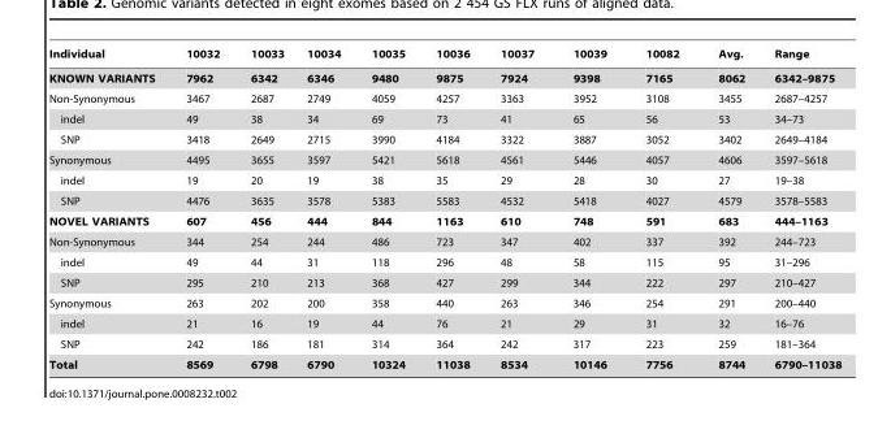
<table><thead><tr><td>Individual</td><td>10032</td><td>10033</td><td>10034</td><td>10035</td><td>10036</td><td>10037</td><td>10039</td><td>10082</td><td>Avg.</td><td>Range</td></tr></thead><tbody><tr><td>KNOWN VARIANTS</td><td>7962</td><td>6342</td><td>6346</td><td>9480</td><td>9875</td><td>7924</td><td>9398</td><td>7165</td><td>8062</td><td>6342–9875</td></tr><tr><td>Non-Synonymous</td><td>3467</td><td>2687</td><td>2749</td><td>4059</td><td>4257</td><td>3363</td><td>3952</td><td>3108</td><td>3455</td><td>2687–4257</td></tr><tr><td>indel</td><td>49</td><td>38</td><td>34</td><td>69</td><td>73</td><td>41</td><td>65</td><td>56</td><td>53</td><td>34–73</td></tr><tr><td>SNP</td><td>3418</td><td>2649</td><td>2715</td><td>3990</td><td>4184</td><td>3322</td><td>3887</td><td>3052</td><td>3402</td><td>2649–4184</td></tr><tr><td>Synonymous</td><td>4495</td><td>3655</td><td>3597</td><td>5421</td><td>5618</td><td>4561</td><td>5446</td><td>4057</td><td>4606</td><td>3597–5618</td></tr><tr><td>indel</td><td>19</td><td>20</td><td>19</td><td>38</td><td>35</td><td>29</td><td>28</td><td>30</td><td>27</td><td>19–38</td></tr><tr><td>SNP</td><td>4476</td><td>3635</td><td>3578</td><td>5383</td><td>5583</td><td>4532</td><td>5418</td><td>4027</td><td>4579</td><td>3578–5583</td></tr><tr><td>NOVEL VARIANTS</td><td>607</td><td>456</td><td>444</td><td>844</td><td>1163</td><td>610</td><td>748</td><td>591</td><td>683</td><td>444–1163</td></tr><tr><td>Non-Synonymous</td><td>344</td><td>254</td><td>244</td><td>486</td><td>723</td><td>347</td><td>402</td><td>337</td><td>392</td><td>244–723</td></tr><tr><td>indel</td><td>49</td><td>44</td><td>31</td><td>118</td><td>296</td><td>48</td><td>58</td><td>115</td><td>95</td><td>31–296</td></tr><tr><td>SNP</td><td>295</td><td>210</td><td>213</td><td>368</td><td>427</td><td>299</td><td>344</td><td>222</td><td>297</td><td>210–427</td></tr><tr><td>Synonymous</td><td>263</td><td>202</td><td>200</td><td>358</td><td>440</td><td>263</td><td>346</td><td>254</td><td>291</td><td>200–440</td></tr><tr><td>indel</td><td>21</td><td>16</td><td>19</td><td>44</td><td>76</td><td>21</td><td>29</td><td>31</td><td>32</td><td>16–76</td></tr><tr><td>SNP</td><td>242</td><td>186</td><td>181</td><td>314</td><td>364</td><td>242</td><td>317</td><td>223</td><td>259</td><td>181–364</td></tr><tr><td>Total</td><td>8569</td><td>6798</td><td>6790</td><td>10324</td><td>11038</td><td>8534</td><td>10146</td><td>7756</td><td>8744</td><td>6790–11038</td></tr></tbody></table>